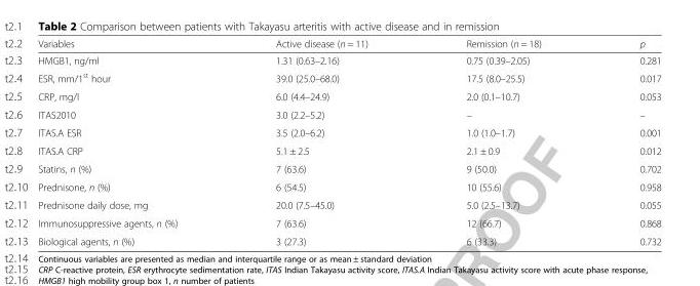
<table><thead><tr><td>Variables</td><td>Active disease (n = 11)</td><td>Remission (n = 18)</td><td>p</td></tr></thead><tbody><tr><td>HMGB1, ng/ml</td><td>1.31 (0.63–2.16)</td><td>0.75 (0.39–2.05)</td><td>0.281</td></tr><tr><td>ESR, mm/1<sup>st</sup> hour</td><td>39.0 (25.0–68.0)</td><td>17.5 (8.0–25.5)</td><td>0.017</td></tr><tr><td>CRP, mg/l</td><td>6.0 (4.4–24.9)</td><td>2.0 (0.1–10.7)</td><td>0.053</td></tr><tr><td>ITAS2010</td><td>3.0 (2.2–5.2)</td><td>–</td><td>–</td></tr><tr><td>ITAS.A ESR</td><td>3.5 (2.0–6.2)</td><td>1.0 (1.0–1.7)</td><td>0.001</td></tr><tr><td>ITAS.A CRP</td><td>5.1 ± 2.5</td><td>2.1 ± 0.9</td><td>0.012</td></tr><tr><td>Statins, n (%)</td><td>7 (63.6)</td><td>9 (50.0)</td><td>0.702</td></tr><tr><td>Prednisone, n (%)</td><td>6 (54.5)</td><td>10 (55.6)</td><td>0.958</td></tr><tr><td>Prednisone daily dose, mg</td><td>20.0 (7.5–45.0)</td><td>5.0 (2.5–13.7)</td><td>0.055</td></tr><tr><td>Immunosuppressive agents, n (%)</td><td>7 (63.6)</td><td>12 (66.7)</td><td>0.868</td></tr><tr><td>Biological agents, n (%)</td><td>3 (27.3)</td><td>6 (33.3)</td><td>0.732</td></tr></tbody></table>